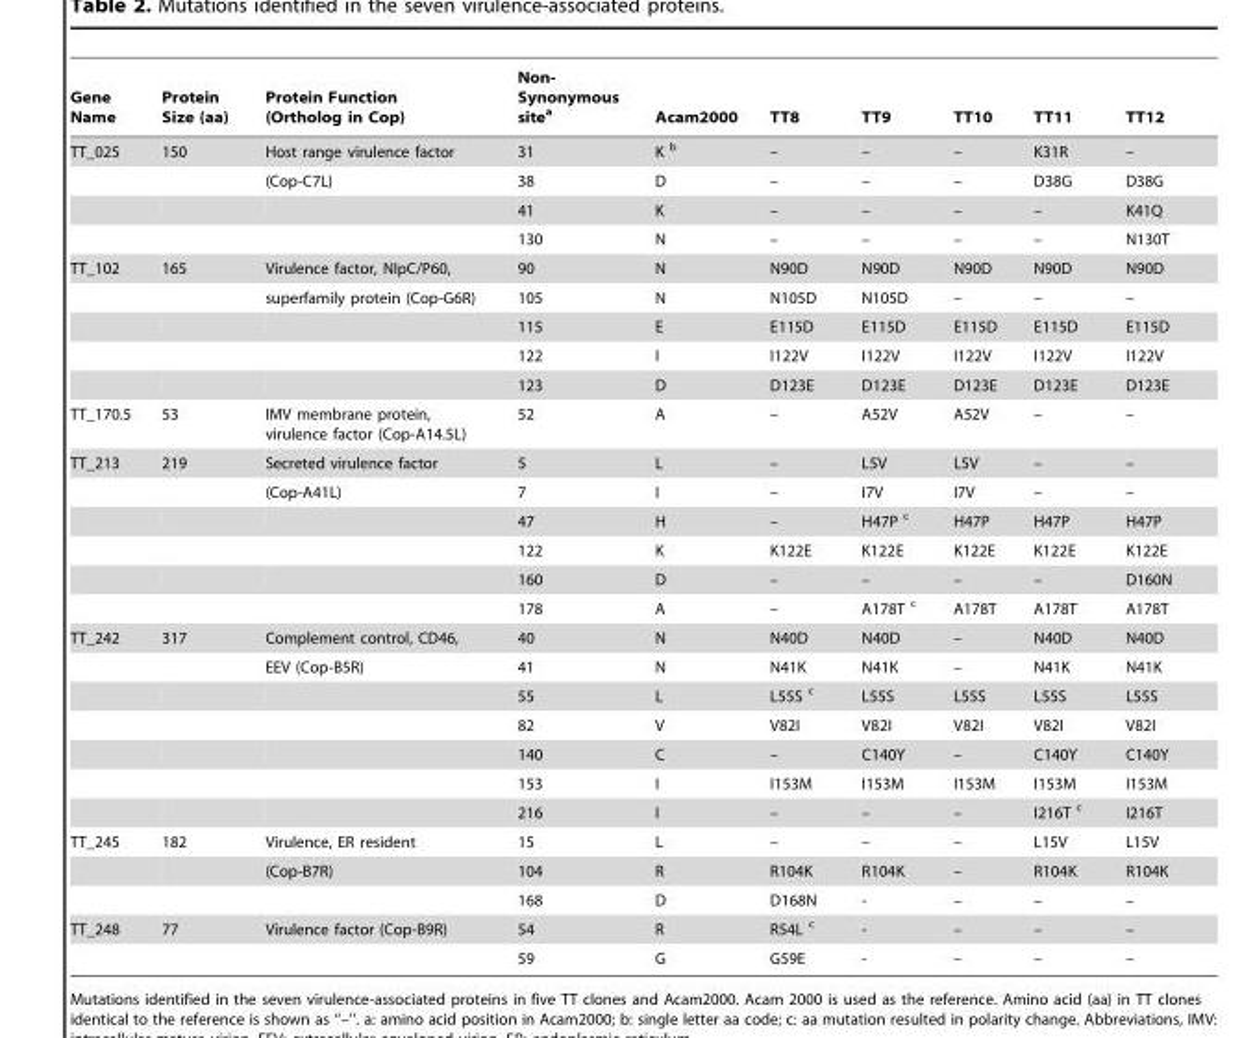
<table><thead><tr><td>Gene Name</td><td>Protein Size (aa)</td><td>Protein Function (Ortholog in Cop)</td><td>Non- Synonymous site<sup>a</sup></td><td>Acam2000</td><td>TT8</td><td>TT9</td><td>TT10</td><td>TT11</td><td>TT12</td></tr></thead><tbody><tr><td rowspan="4">TT_025</td><td>150</td><td>Host range virulence factor</td><td>31</td><td>K <sup>b</sup></td><td>–</td><td>–</td><td>–</td><td>K31R</td><td>–</td></tr><tr><td></td><td>(Cop-C7L)</td><td>38</td><td>D</td><td>–</td><td>–</td><td>–</td><td>D38G</td><td>D38G</td></tr><tr><td></td><td></td><td>41</td><td>K</td><td>–</td><td>–</td><td>–</td><td>–</td><td>K41Q</td></tr><tr><td></td><td></td><td>130</td><td>N</td><td>–</td><td>–</td><td>–</td><td>–</td><td>N130T</td></tr><tr><td rowspan="5">TT_102</td><td>165</td><td>Virulence factor, NIpC/P60,</td><td>90</td><td>N</td><td>N90D</td><td>N90D</td><td>N90D</td><td>N90D</td><td>N90D</td></tr><tr><td></td><td>superfamily protein (Cop-G6R)</td><td>105</td><td>N</td><td>N105D</td><td>N105D</td><td>–</td><td>–</td><td>–</td></tr><tr><td></td><td></td><td>115</td><td>E</td><td>E115D</td><td>E115D</td><td>E115D</td><td>E115D</td><td>E115D</td></tr><tr><td></td><td></td><td>122</td><td>I</td><td>I122V</td><td>I122V</td><td>I122V</td><td>I122V</td><td>I122V</td></tr><tr><td></td><td></td><td>123</td><td>D</td><td>D123E</td><td>D123E</td><td>D123E</td><td>D123E</td><td>D123E</td></tr><tr><td>TT_170.5</td><td>53</td><td>IMV membrane protein, virulence factor (Cop-A14.5L)</td><td>52</td><td>A</td><td>–</td><td>A52V</td><td>A52V</td><td>–</td><td>–</td></tr><tr><td rowspan="6">TT_213</td><td>219</td><td>Secreted virulence factor</td><td>5</td><td>L</td><td>–</td><td>L5V</td><td>L5V</td><td>–</td><td>–</td></tr><tr><td></td><td>(Cop-A41L)</td><td>7</td><td>I</td><td>–</td><td>I7V</td><td>I7V</td><td>–</td><td>–</td></tr><tr><td></td><td></td><td>47</td><td>H</td><td>–</td><td>H47P <sup>c</sup></td><td>H47P</td><td>H47P</td><td>H47P</td></tr><tr><td></td><td></td><td>122</td><td>K</td><td>K122E</td><td>K122E</td><td>K122E</td><td>K122E</td><td>K122E</td></tr><tr><td></td><td></td><td>160</td><td>D</td><td>–</td><td>–</td><td>–</td><td>–</td><td>D160N</td></tr><tr><td></td><td></td><td>178</td><td>A</td><td>–</td><td>A178T <sup>c</sup></td><td>A178T</td><td>A178T</td><td>A178T</td></tr><tr><td rowspan="7">TT_242</td><td>317</td><td>Complement control, CD46,</td><td>40</td><td>N</td><td>N40D</td><td>N40D</td><td>–</td><td>N40D</td><td>N40D</td></tr><tr><td></td><td>EEV (Cop-B5R)</td><td>41</td><td>N</td><td>N41K</td><td>N41K</td><td>–</td><td>N41K</td><td>N41K</td></tr><tr><td></td><td></td><td>55</td><td>L</td><td>L55S <sup>c</sup></td><td>L55S</td><td>L55S</td><td>L55S</td><td>L55S</td></tr><tr><td></td><td></td><td>82</td><td>V</td><td>V82I</td><td>V82I</td><td>V82I</td><td>V82I</td><td>V82I</td></tr><tr><td></td><td></td><td>140</td><td>C</td><td>–</td><td>C140Y</td><td>–</td><td>C140Y</td><td>C140Y</td></tr><tr><td></td><td></td><td>153</td><td>I</td><td>I153M</td><td>I153M</td><td>I153M</td><td>I153M</td><td>I153M</td></tr><tr><td></td><td></td><td>216</td><td>I</td><td>–</td><td>–</td><td>–</td><td>I216T <sup>c</sup></td><td>I216T</td></tr><tr><td rowspan="3">TT_245</td><td>182</td><td>Virulence, ER resident</td><td>15</td><td>L</td><td>–</td><td>–</td><td>–</td><td>L15V</td><td>L15V</td></tr><tr><td></td><td>(Cop-B7R)</td><td>104</td><td>R</td><td>R104K</td><td>R104K</td><td>–</td><td>R104K</td><td>R104K</td></tr><tr><td></td><td></td><td>168</td><td>D</td><td>D168N</td><td>-</td><td>–</td><td>–</td><td>–</td></tr><tr><td rowspan="2">TT_248</td><td>77</td><td>Virulence factor (Cop-B9R)</td><td>54</td><td>R</td><td>R54L <sup>c</sup></td><td>-</td><td>–</td><td>–</td><td>–</td></tr><tr><td></td><td></td><td>59</td><td>G</td><td>G59E</td><td>-</td><td>–</td><td>–</td><td>–</td></tr></tbody></table>